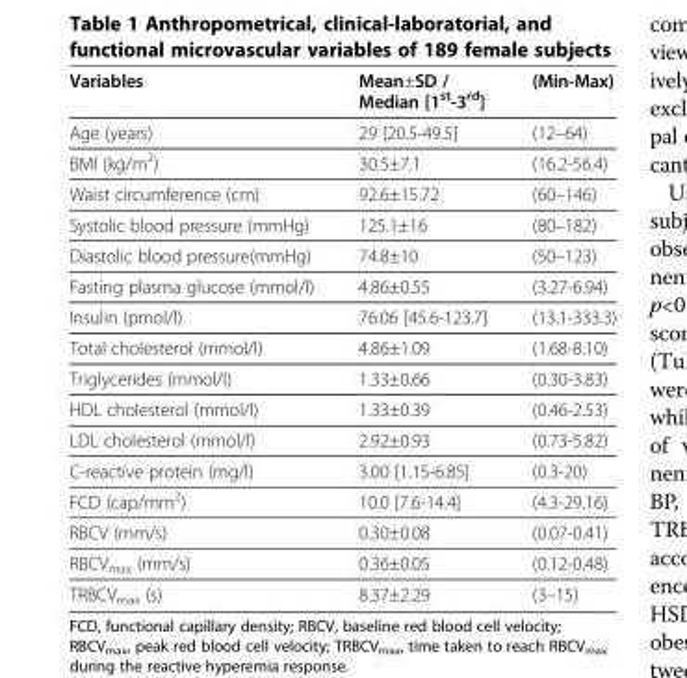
<table><thead><tr><td>Variables</td><td>Mean±SD / Median [1<sup>st</sup>-3<sup>rd</sup>]</td><td>(Min-Max)</td></tr></thead><tbody><tr><td>Age (years)</td><td>29 [20.5-49.5]</td><td>(12–64)</td></tr><tr><td>BMI (kg/m<sup>2</sup>)</td><td>30.5±7.1</td><td>(16.2-56.4)</td></tr><tr><td>Waist circumference (cm)</td><td>92.6±15.72</td><td>(60–146)</td></tr><tr><td>Systolic blood pressure (mmHg)</td><td>125.1±16</td><td>(80–182)</td></tr><tr><td>Diastolic blood pressure(mmHg)</td><td>74.8±10</td><td>(50–123)</td></tr><tr><td>Fasting plasma glucose (mmol/l)</td><td>4.86±0.55</td><td>(3.27-6.94)</td></tr><tr><td>Insulin (pmol/l)</td><td>76.06 [45.6-123.7]</td><td>(13.1-333.3)</td></tr><tr><td>Total cholesterol (mmol/l)</td><td>4.86±1.09</td><td>(1.68-8.10)</td></tr><tr><td>Triglycerides (mmol/l)</td><td>1.33±0.66</td><td>(0.30-3.83)</td></tr><tr><td>HDL cholesterol (mmol/l)</td><td>1.33±0.39</td><td>(0.46-2.53)</td></tr><tr><td>LDL cholesterol (mmol/l)</td><td>2.92±0.93</td><td>(0.73-5.82)</td></tr><tr><td>C-reactive protein (mg/l)</td><td>3.00 [1.15-6.85]</td><td>(0.3-20)</td></tr><tr><td>FCD (cap/mm<sup>2</sup>)</td><td>10.0 [7.6-14.4]</td><td>(4.3-29.16)</td></tr><tr><td>RBCV (mm/s)</td><td>0.30±0.08</td><td>(0.07-0.41)</td></tr><tr><td>RBCV<sub>max</sub> (mm/s)</td><td>0.36±0.05</td><td>(0.12-0.48)</td></tr><tr><td>TRBCV<sub>max</sub> (s)</td><td>8.37±2.29</td><td>(3–15)</td></tr></tbody></table>